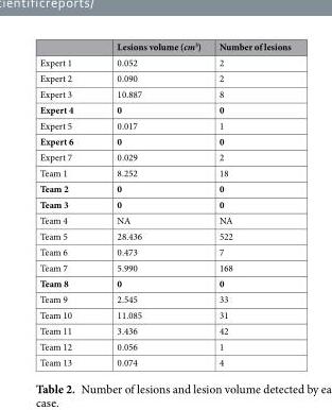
<table><thead><tr><td></td><td>Lesions volume (cm<sup>3</sup>)</td><td>Number of lesions</td></tr></thead><tbody><tr><td>Expert 1</td><td>0.052</td><td>2</td></tr><tr><td>Expert 2</td><td>0.090</td><td>2</td></tr><tr><td>Expert 3</td><td>10.887</td><td>8</td></tr><tr><td>Expert 4</td><td>0</td><td>0</td></tr><tr><td>Expert 5</td><td>0.017</td><td>1</td></tr><tr><td>Expert 6</td><td>0</td><td>0</td></tr><tr><td>Expert 7</td><td>0.029</td><td>2</td></tr><tr><td>Team 1</td><td>8.252</td><td>18</td></tr><tr><td>Team 2</td><td>0</td><td>0</td></tr><tr><td>Team 3</td><td>0</td><td>0</td></tr><tr><td>Team 4</td><td>NA</td><td>NA</td></tr><tr><td>Team 5</td><td>28.436</td><td>522</td></tr><tr><td>Team 6</td><td>0.473</td><td>7</td></tr><tr><td>Team 7</td><td>5.990</td><td>168</td></tr><tr><td>Team 8</td><td>0</td><td>0</td></tr><tr><td>Team 9</td><td>2.545</td><td>33</td></tr><tr><td>Team 10</td><td>11.085</td><td>31</td></tr><tr><td>Team 11</td><td>3.436</td><td>42</td></tr><tr><td>Team 12</td><td>0.056</td><td>1</td></tr><tr><td>Team 13</td><td>0.074</td><td>4</td></tr></tbody></table>